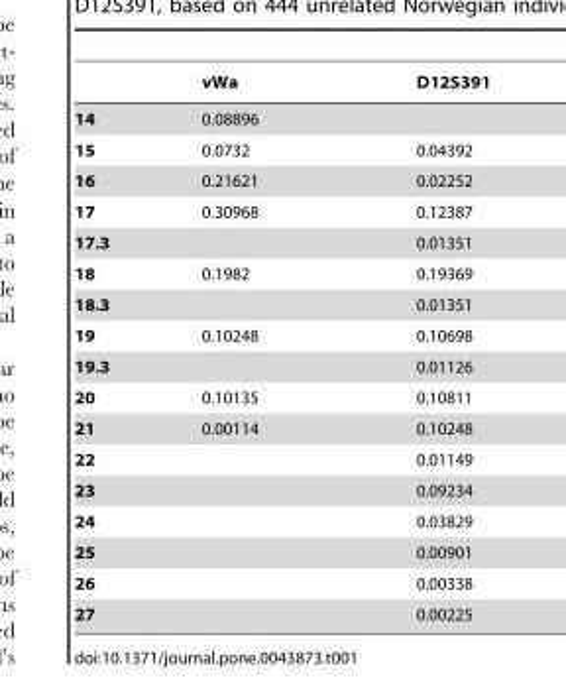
<table><thead><tr><td></td><td>vWa</td><td>D12S391</td></tr></thead><tbody><tr><td>14</td><td>0.08896</td><td></td></tr><tr><td>15</td><td>0.0732</td><td>0.04392</td></tr><tr><td>16</td><td>0.21621</td><td>0.02252</td></tr><tr><td>17</td><td>0.30968</td><td>0.12387</td></tr><tr><td>17.3</td><td></td><td>0.01351</td></tr><tr><td>18</td><td>0.1982</td><td>0.19369</td></tr><tr><td>18.3</td><td></td><td>0.01351</td></tr><tr><td>19</td><td>0.10248</td><td>0.10698</td></tr><tr><td>19.3</td><td></td><td>0.01126</td></tr><tr><td>20</td><td>0.10135</td><td>0.10811</td></tr><tr><td>21</td><td>0.00114</td><td>0.10248</td></tr><tr><td>22</td><td></td><td>0.01149</td></tr><tr><td>23</td><td></td><td>0.09234</td></tr><tr><td>24</td><td></td><td>0.03829</td></tr><tr><td>25</td><td></td><td>0.00901</td></tr><tr><td>26</td><td></td><td>0.00338</td></tr><tr><td>27</td><td></td><td>0.00225</td></tr></tbody></table>